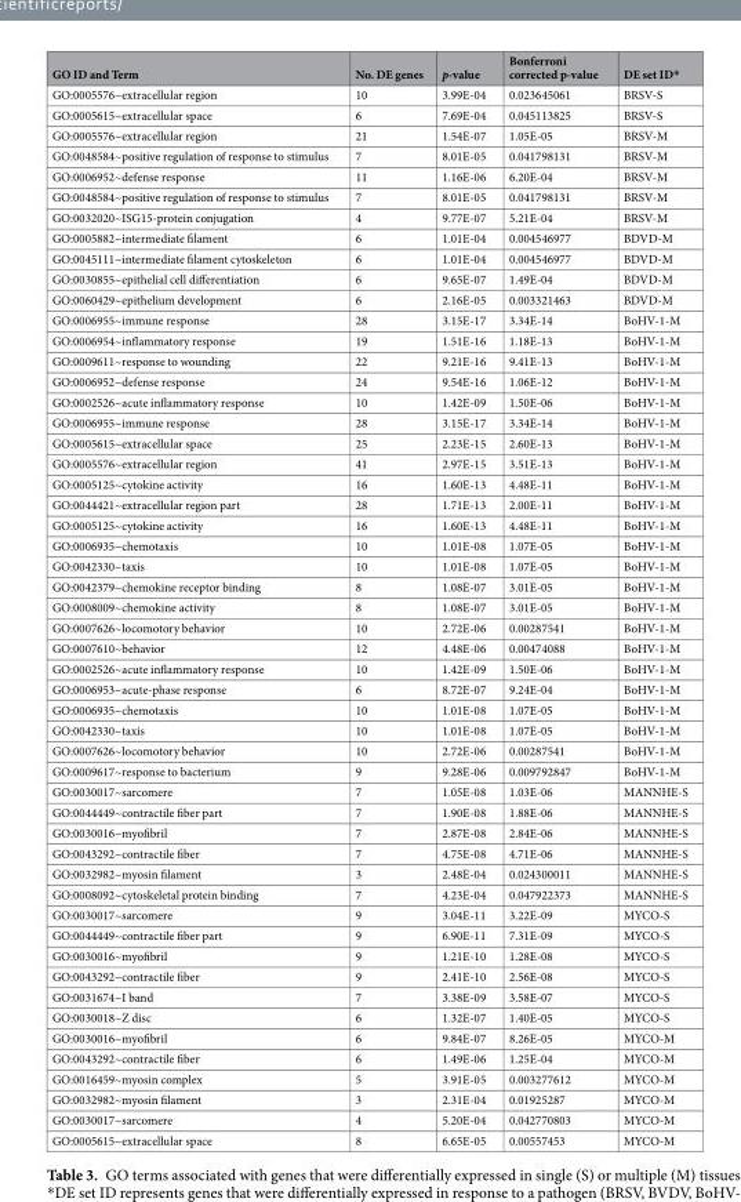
<table><thead><tr><td>GO ID and Term</td><td>No. DE genes</td><td>p-value</td><td>Bonferroni corrected p-value</td><td>DE set ID*</td></tr></thead><tbody><tr><td>GO:0005576~extracellular region</td><td>10</td><td>3.99E-04</td><td>0.023645061</td><td>BRSV-S</td></tr><tr><td>GO:0005615~extracellular space</td><td>6</td><td>7.69E-04</td><td>0.045113825</td><td>BRSV-S</td></tr><tr><td>GO:0005576~extracellular region</td><td>21</td><td>1.54E-07</td><td>1.05E-05</td><td>BRSV-M</td></tr><tr><td>GO:0048584~positive regulation of response to stimulus</td><td>7</td><td>8.01E-05</td><td>0.041798131</td><td>BRSV-M</td></tr><tr><td>GO:0006952~defense response</td><td>11</td><td>1.16E-06</td><td>6.20E-04</td><td>BRSV-M</td></tr><tr><td>GO:0048584~positive regulation of response to stimulus</td><td>7</td><td>8.01E-05</td><td>0.041798131</td><td>BRSV-M</td></tr><tr><td>GO:0032020~ISG15-protein conjugation</td><td>4</td><td>9.77E-07</td><td>5.21E-04</td><td>BRSV-M</td></tr><tr><td>GO:0005882~intermediate filament</td><td>6</td><td>1.01E-04</td><td>0.004546977</td><td>BDVD-M</td></tr><tr><td>GO:0045111~intermediate filament cytoskeleton</td><td>6</td><td>1.01E-04</td><td>0.004546977</td><td>BDVD-M</td></tr><tr><td>GO:0030855~epithelial cell differentiation</td><td>6</td><td>9.65E-07</td><td>1.49E-04</td><td>BDVD-M</td></tr><tr><td>GO:0060429~epithelium development</td><td>6</td><td>2.16E-05</td><td>0.003321463</td><td>BDVD-M</td></tr><tr><td>GO:0006955~immune response</td><td>28</td><td>3.15E-17</td><td>3.34E-14</td><td>BoHV-1-M</td></tr><tr><td>GO:0006954~inflammatory response</td><td>19</td><td>1.51E-16</td><td>1.18E-13</td><td>BoHV-1-M</td></tr><tr><td>GO:0009611~response to wounding</td><td>22</td><td>9.21E-16</td><td>9.41E-13</td><td>BoHV-1-M</td></tr><tr><td>GO:0006952~defense response</td><td>24</td><td>9.54E-16</td><td>1.06E-12</td><td>BoHV-1-M</td></tr><tr><td>GO:0002526~acute inflammatory response</td><td>10</td><td>1.42E-09</td><td>1.50E-06</td><td>BoHV-1-M</td></tr><tr><td>GO:0006955~immune response</td><td>28</td><td>3.15E-17</td><td>3.34E-14</td><td>BoHV-1-M</td></tr><tr><td>GO:0005615~extracellular space</td><td>25</td><td>2.23E-15</td><td>2.60E-13</td><td>BoHV-1-M</td></tr><tr><td>GO:0005576~extracellular region</td><td>41</td><td>2.97E-15</td><td>3.51E-13</td><td>BoHV-1-M</td></tr><tr><td>GO:0005125~cytokine activity</td><td>16</td><td>1.60E-13</td><td>4.48E-11</td><td>BoHV-1-M</td></tr><tr><td>GO:0044421~extracellular region part</td><td>28</td><td>1.71E-13</td><td>2.00E-11</td><td>BoHV-1-M</td></tr><tr><td>GO:0005125~cytokine activity</td><td>16</td><td>1.60E-13</td><td>4.48E-11</td><td>BoHV-1-M</td></tr><tr><td>GO:0006935~chemotaxis</td><td>10</td><td>1.01E-08</td><td>1.07E-05</td><td>BoHV-1-M</td></tr><tr><td>GO:0042330~taxis</td><td>10</td><td>1.01E-08</td><td>1.07E-05</td><td>BoHV-1-M</td></tr><tr><td>GO:0042379~chemokine receptor binding</td><td>8</td><td>1.08E-07</td><td>3.01E-05</td><td>BoHV-1-M</td></tr><tr><td>GO:0008009~chemokine activity</td><td>8</td><td>1.08E-07</td><td>3.01E-05</td><td>BoHV-1-M</td></tr><tr><td>GO:0007626~locomotory behavior</td><td>10</td><td>2.72E-06</td><td>0.00287541</td><td>BoHV-1-M</td></tr><tr><td>GO:0007610~behavior</td><td>12</td><td>4.48E-06</td><td>0.00474088</td><td>BoHV-1-M</td></tr><tr><td>GO:0002526~acute inflammatory response</td><td>10</td><td>1.42E-09</td><td>1.50E-06</td><td>BoHV-1-M</td></tr><tr><td>GO:0006953~acute-phase response</td><td>6</td><td>8.72E-07</td><td>9.24E-04</td><td>BoHV-1-M</td></tr><tr><td>GO:0006935~chemotaxis</td><td>10</td><td>1.01E-08</td><td>1.07E-05</td><td>BoHV-1-M</td></tr><tr><td>GO:0042330~taxis</td><td>10</td><td>1.01E-08</td><td>1.07E-05</td><td>BoHV-1-M</td></tr><tr><td>GO:0007626~locomotory behavior</td><td>10</td><td>2.72E-06</td><td>0.00287541</td><td>BoHV-1-M</td></tr><tr><td>GO:0009617~response to bacterium</td><td>9</td><td>9.28E-06</td><td>0.009792847</td><td>BoHV-1-M</td></tr><tr><td>GO:0030017~sarcomere</td><td>7</td><td>1.05E-08</td><td>1.03E-06</td><td>MANNHE-S</td></tr><tr><td>GO:0044449~contractile fiber part</td><td>7</td><td>1.90E-08</td><td>1.88E-06</td><td>MANNHE-S</td></tr><tr><td>GO:0030016~myofibril</td><td>7</td><td>2.87E-08</td><td>2.84E-06</td><td>MANNHE-S</td></tr><tr><td>GO:0043292~contractile fiber</td><td>7</td><td>4.75E-08</td><td>4.71E-06</td><td>MANNHE-S</td></tr><tr><td>GO:0032982~myosin filament</td><td>3</td><td>2.48E-04</td><td>0.024300011</td><td>MANNHE-S</td></tr><tr><td>GO:0008092~cytoskeletal protein binding</td><td>7</td><td>4.23E-04</td><td>0.047922373</td><td>MANNHE-S</td></tr><tr><td>GO:0030017~sarcomere</td><td>9</td><td>3.04E-11</td><td>3.22E-09</td><td>MYCO-S</td></tr><tr><td>GO:0044449~contractile fiber part</td><td>9</td><td>6.90E-11</td><td>7.31E-09</td><td>MYCO-S</td></tr><tr><td>GO:0030016~myofibril</td><td>9</td><td>1.21E-10</td><td>1.28E-08</td><td>MYCO-S</td></tr><tr><td>GO:0043292~contractile fiber</td><td>9</td><td>2.41E-10</td><td>2.56E-08</td><td>MYCO-S</td></tr><tr><td>GO:0031674~I band</td><td>7</td><td>3.38E-09</td><td>3.58E-07</td><td>MYCO-S</td></tr><tr><td>GO:0030018~Z disc</td><td>6</td><td>1.32E-07</td><td>1.40E-05</td><td>MYCO-S</td></tr><tr><td>GO:0030016~myofibril</td><td>6</td><td>9.84E-07</td><td>8.26E-05</td><td>MYCO-M</td></tr><tr><td>GO:0043292~contractile fiber</td><td>6</td><td>1.49E-06</td><td>1.25E-04</td><td>MYCO-M</td></tr><tr><td>GO:0016459~myosin complex</td><td>5</td><td>3.91E-05</td><td>0.003277612</td><td>MYCO-M</td></tr><tr><td>GO:0032982~myosin filament</td><td>3</td><td>2.31E-04</td><td>0.01925287</td><td>MYCO-M</td></tr><tr><td>GO:0030017~sarcomere</td><td>4</td><td>5.20E-04</td><td>0.042770803</td><td>MYCO-M</td></tr><tr><td>GO:0005615~extracellular space</td><td>8</td><td>6.65E-05</td><td>0.00557453</td><td>MYCO-M</td></tr></tbody></table>